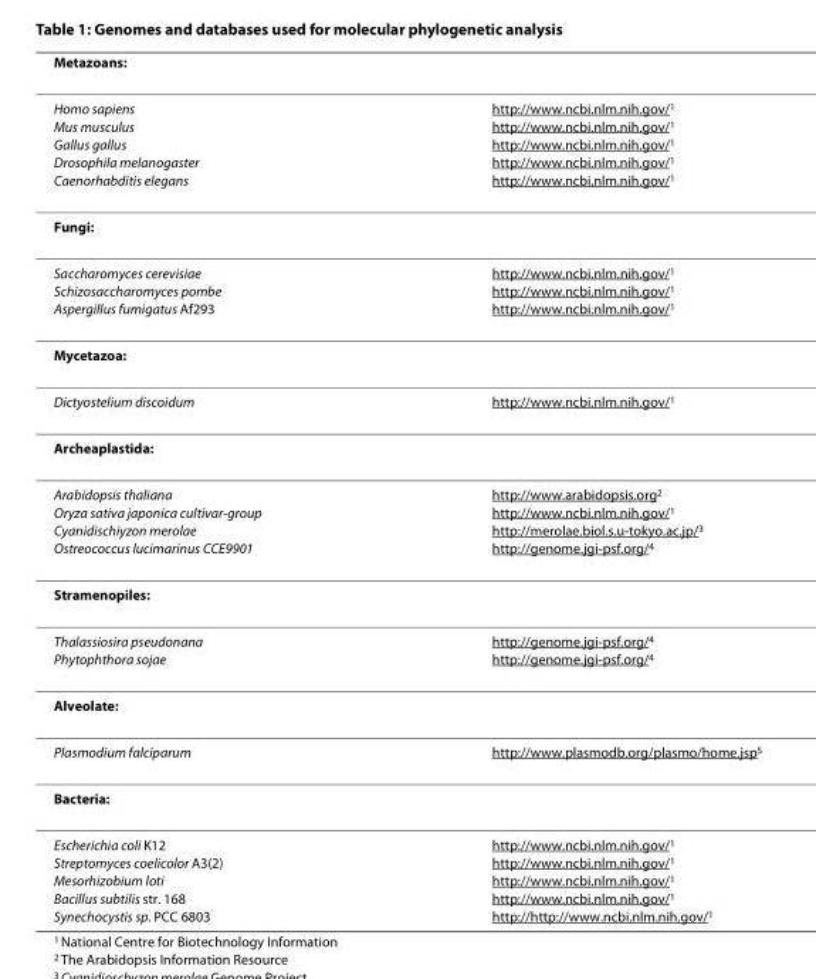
<table><tbody><tr><td colspan="2">Metazoans:</td></tr><tr><td>Homo sapiens Mus musculus Gallus gallus Drosophila melanogaster Caenorhabditis elegans</td><td>http://www.ncbi.nlm.nih.gov/<sup>1</sup> http://www.ncbi.nlm.nih.gov/<sup>1</sup> http://www.ncbi.nlm.nih.gov/<sup>1</sup> http://www.ncbi.nlm.nih.gov/<sup>1</sup> http://www.ncbi.nlm.nih.gov/<sup>1</sup></td></tr><tr><td colspan="2">Fungi:</td></tr><tr><td>Saccharomyces cerevisiae Schizosaccharomyces pombe Aspergillus fumigatus Af293</td><td>http://www.ncbi.nlm.nih.gov/<sup>1</sup> http://www.ncbi.nlm.nih.gov/<sup>1</sup> http://www.ncbi.nlm.nih.gov/<sup>1</sup></td></tr><tr><td colspan="2">Mycetazoa:</td></tr><tr><td>Dictyostelium discoidum</td><td>http://www.ncbi.nlm.nih.gov/<sup>1</sup></td></tr><tr><td colspan="2">Archeaplastida:</td></tr><tr><td>Arabidopsis thaliana Oryza sativa japonica cultivar-group Cyanidischiyzon merolae Ostreococcus lucimarinus CCE9901</td><td>http://www.arabidopsis.org<sup>2</sup> http://www.ncbi.nlm.nih.gov/<sup>1</sup> http://merolae.biol.s.u-tokyo.ac.jp/<sup>3</sup> http://genome.jgi-psf.org/<sup>4</sup></td></tr><tr><td colspan="2">Stramenopiles:</td></tr><tr><td>Thalassiosira pseudonana Phytophthora sojae</td><td>http://genome.jgi-psf.org/<sup>4</sup> http://genome.jgi-psf.org/<sup>4</sup></td></tr><tr><td colspan="2">Alveolate:</td></tr><tr><td>Plasmodium falciparum</td><td>http://www.plasmodb.org/plasmo/home.jsp<sup>5</sup></td></tr><tr><td colspan="2">Bacteria:</td></tr><tr><td>Escherichia coli K12 Streptomyces coelicolor A3(2) Mesorhizobium loti Bacillus subtilis str. 168 Synechocystis sp. PCC 6803</td><td>http://www.ncbi.nlm.nih.gov/<sup>1</sup> http://www.ncbi.nlm.nih.gov/<sup>1</sup> http://www.ncbi.nlm.nih.gov/<sup>1</sup> http://www.ncbi.nlm.nih.gov/<sup>1</sup> http://http://www.ncbi.nlm.nih.gov/<sup>1</sup></td></tr></tbody></table>